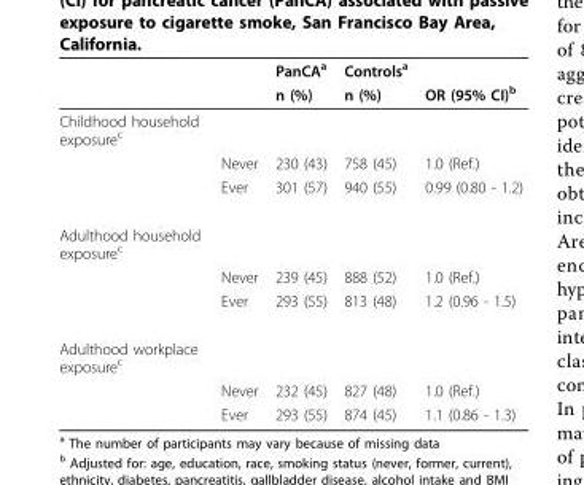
<table><thead><tr><td rowspan="2"></td><td rowspan="2"></td><td rowspan="2">PanCA<sup>a</sup> n (%)</td><td rowspan="2">Controls<sup>a</sup> n (%)</td><td rowspan="2">OR (95% CI)<sup>b</sup></td></tr><tr></tr></thead><tbody><tr><td colspan="5">Childhood household exposure<sup>c</sup></td></tr><tr><td></td><td>Never</td><td>230 (43)</td><td>758 (45)</td><td>1.0 (Ref.)</td></tr><tr><td></td><td>Ever</td><td>301 (57)</td><td>940 (55)</td><td>0.99 (0.80 - 1.2)</td></tr><tr><td colspan="5">Adulthood household exposure<sup>c</sup></td></tr><tr><td></td><td>Never</td><td>239 (45)</td><td>888 (52)</td><td>1.0 (Ref.)</td></tr><tr><td></td><td>Ever</td><td>293 (55)</td><td>813 (48)</td><td>1.2 (0.96 - 1.5)</td></tr><tr><td colspan="5">Adulthood workplace exposure<sup>c</sup></td></tr><tr><td></td><td>Never</td><td>232 (45)</td><td>827 (48)</td><td>1.0 (Ref.)</td></tr><tr><td></td><td>Ever</td><td>293 (55)</td><td>874 (45)</td><td>1.1 (0.86 - 1.3)</td></tr></tbody></table>